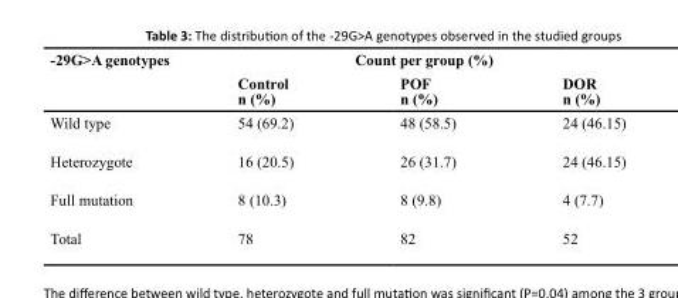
<table><thead><tr><td rowspan="2">-29G&gt;A genotypes</td><td colspan="3">Count per group (%)</td></tr><tr><td>Control n (%)</td><td>POF n (%)</td><td>DOR n (%)</td></tr></thead><tbody><tr><td>Wild type</td><td>54 (69.2)</td><td>48 (58.5)</td><td>24 (46.15)</td></tr><tr><td>Heterozygote</td><td>16 (20.5)</td><td>26 (31.7)</td><td>24 (46.15)</td></tr><tr><td>Full mutation</td><td>8 (10.3)</td><td>8 (9.8)</td><td>4 (7.7)</td></tr><tr><td>Total</td><td>78</td><td>82</td><td>52</td></tr></tbody></table>